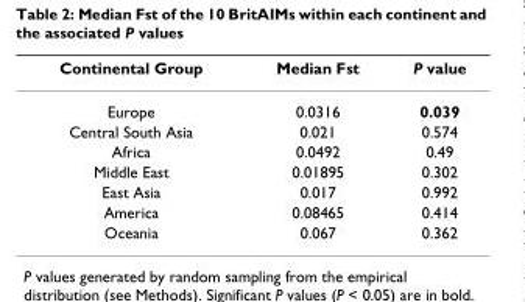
<table><thead><tr><td>Continental Group</td><td>Median Fst</td><td>P value</td></tr></thead><tbody><tr><td>Europe</td><td>0.0316</td><td>0.039</td></tr><tr><td>Central South Asia</td><td>0.021</td><td>0.574</td></tr><tr><td>Africa</td><td>0.0492</td><td>0.49</td></tr><tr><td>Middle East</td><td>0.01895</td><td>0.302</td></tr><tr><td>East Asia</td><td>0.017</td><td>0.992</td></tr><tr><td>America</td><td>0.08465</td><td>0.414</td></tr><tr><td>Oceania</td><td>0.067</td><td>0.362</td></tr></tbody></table>